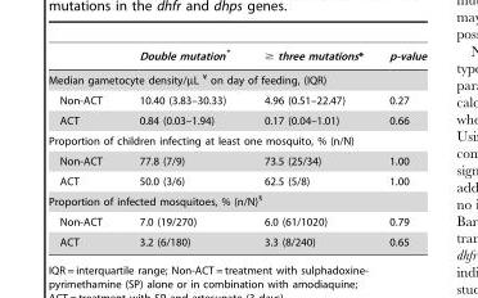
<table><thead><tr><td></td><td>Double mutation*</td><td>≥ three mutations*</td><td>p-value</td></tr></thead><tbody><tr><td colspan="4">Median gametocyte density/µL ¥ on day of feeding, (IQR)</td></tr><tr><td>Non-ACT</td><td>10.40 (3.83–30.33)</td><td>4.96 (0.51–22.47)</td><td>0.27</td></tr><tr><td>ACT</td><td>0.84 (0.03–1.94)</td><td>0.17 (0.04–1.01)</td><td>0.66</td></tr><tr><td colspan="4">Proportion of children infecting at least one mosquito, % (n/N)</td></tr><tr><td>Non-ACT</td><td>77.8 (7/9)</td><td>73.5 (25/34)</td><td>1.00</td></tr><tr><td>ACT</td><td>50.0 (3/6)</td><td>62.5 (5/8)</td><td>1.00</td></tr><tr><td colspan="4">Proportion of infected mosquitoes, % (n/N)§</td></tr><tr><td>Non-ACT</td><td>7.0 (19/270)</td><td>6.0 (61/1020)</td><td>0.79</td></tr><tr><td>ACT</td><td>3.2 (6/180)</td><td>3.3 (8/240)</td><td>0.65</td></tr></tbody></table>